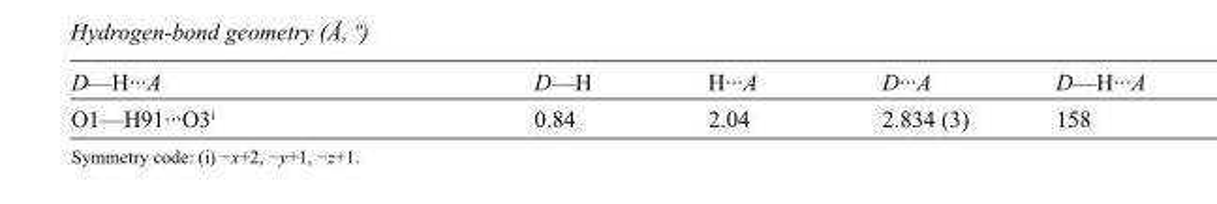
<table><tbody><tr><td>D—H···A</td><td>D—H</td><td>H···A</td><td>D···A</td><td>D—H···A</td></tr><tr><td>O1—H91···O3<sup>i</sup></td><td>0.84</td><td>2.04</td><td>2.834 (3)</td><td>158</td></tr></tbody></table>